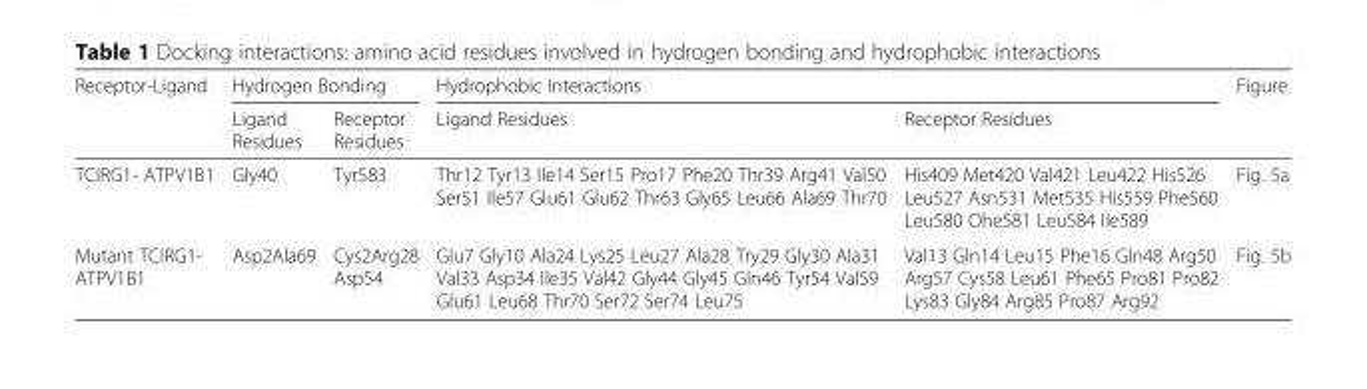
<table><thead><tr><td rowspan="2">Receptor-Ligand</td><td colspan="2">Hydrogen Bonding</td><td colspan="2">Hydrophobic Interactions</td><td rowspan="2">Figure</td></tr><tr><td>Ligand Residues</td><td>Receptor Residues</td><td>Ligand Residues</td><td>Receptor Residues</td></tr></thead><tbody><tr><td>TCIRG1- ATPV1B1</td><td>Gly40</td><td>Tyr583</td><td>Thr12 Tyr13 Ile14 Ser15 Pro17 Phe20 Thr39 Arg41 Val50 Ser51 Ile57 Glu61 Glu62 Thr63 Gly65 Leu66 Ala69 Thr70</td><td>His409 Met420 Val421 Leu422 His526 Leu527 Asn531 Met535 His559 Phe560 Leu580 Ohe581 Leu584 Ile589</td><td>Fig. 5a</td></tr><tr><td>Mutant TCIRG1- ATPV1B1</td><td>Asp2Ala69</td><td>Cys2Arg28 Asp54</td><td>Glu7 Gly10 Ala24 Lys25 Leu27 Ala28 Try29 Gly30 Ala31 Val33 Asp34 Ile35 Val42 Gly44 Gly45 Gln46 Tyr54 Val59 Glu61 Leu68 Thr70 Ser72 Ser74 Leu75</td><td>Val13 Gln14 Leu15 Phe16 Gln48 Arg50 Arg57 Cys58 Leu61 Phe65 Pro81 Pro82 Lys83 Gly84 Arg85 Pro87 Arg92</td><td>Fig. 5b</td></tr></tbody></table>